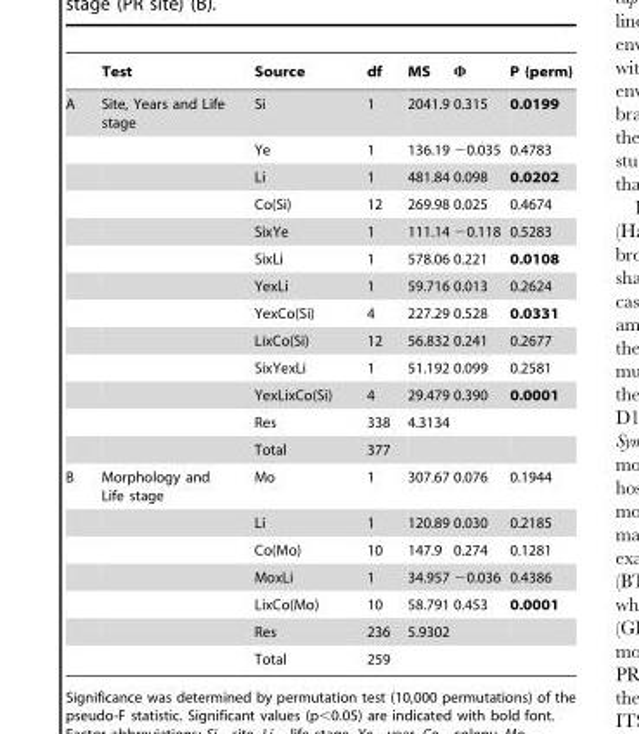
<table><thead><tr><td></td><td>Test</td><td>Source</td><td>df</td><td>MS</td><td>Φ</td><td>P (perm)</td></tr></thead><tbody><tr><td rowspan="13">A</td><td>Site, Years and Life stage</td><td>Si</td><td>1</td><td>2041.9</td><td>0.315</td><td>0.0199</td></tr><tr><td></td><td>Ye</td><td>1</td><td>136.19</td><td>−0.035</td><td>0.4783</td></tr><tr><td></td><td>Li</td><td>1</td><td>481.84</td><td>0.098</td><td>0.0202</td></tr><tr><td></td><td>Co(Si)</td><td>12</td><td>269.98</td><td>0.025</td><td>0.4674</td></tr><tr><td></td><td>SixYe</td><td>1</td><td>111.14</td><td>−0.118</td><td>0.5283</td></tr><tr><td></td><td>SixLi</td><td>1</td><td>578.06</td><td>0.221</td><td>0.0108</td></tr><tr><td></td><td>YexLi</td><td>1</td><td>59.716</td><td>0.013</td><td>0.2624</td></tr><tr><td></td><td>YexCo(Si)</td><td>4</td><td>227.29</td><td>0.528</td><td>0.0331</td></tr><tr><td></td><td>LixCo(Si)</td><td>12</td><td>56.832</td><td>0.241</td><td>0.2677</td></tr><tr><td></td><td>SixYexLi</td><td>1</td><td>51.192</td><td>0.099</td><td>0.2581</td></tr><tr><td></td><td>YexLixCo(Si)</td><td>4</td><td>29.479</td><td>0.390</td><td>0.0001</td></tr><tr><td></td><td>Res</td><td>338</td><td>4.3134</td><td></td><td></td></tr><tr><td></td><td>Total</td><td>377</td><td></td><td></td><td></td></tr><tr><td rowspan="7">B</td><td>Morphology and Life stage</td><td>Mo</td><td>1</td><td>307.67</td><td>0.076</td><td>0.1944</td></tr><tr><td></td><td>Li</td><td>1</td><td>120.89</td><td>0.030</td><td>0.2185</td></tr><tr><td></td><td>Co(Mo)</td><td>10</td><td>147.9</td><td>0.274</td><td>0.1281</td></tr><tr><td></td><td>MoxLi</td><td>1</td><td>34.957</td><td>−0.036</td><td>0.4386</td></tr><tr><td></td><td>LixCo(Mo)</td><td>10</td><td>58.791</td><td>0.453</td><td>0.0001</td></tr><tr><td></td><td>Res</td><td>236</td><td>5.9302</td><td></td><td></td></tr><tr><td></td><td>Total</td><td>259</td><td></td><td></td><td></td></tr></tbody></table>